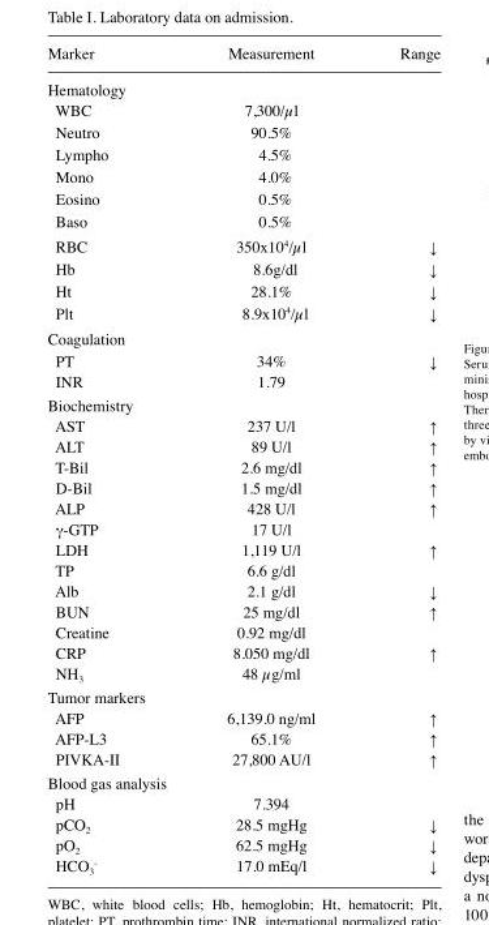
<table><thead><tr><td>Marker</td><td>Measurement</td><td>Range</td></tr></thead><tbody><tr><td colspan="3">Hematology</td></tr><tr><td>WBC</td><td>7,300/µl</td><td></td></tr><tr><td>Neutro</td><td>90.5%</td><td></td></tr><tr><td>Lympho</td><td>4.5%</td><td></td></tr><tr><td>Mono</td><td>4.0%</td><td></td></tr><tr><td>Eosino</td><td>0.5%</td><td></td></tr><tr><td>Baso</td><td>0.5%</td><td></td></tr><tr><td>RBC</td><td>350x104/µl</td><td>↓</td></tr><tr><td>Hb</td><td>8.6g/dl</td><td>↓</td></tr><tr><td>Ht</td><td>28.1%</td><td>↓</td></tr><tr><td>Plt</td><td>8.9x104/µl</td><td>↓</td></tr><tr><td colspan="3">Coagulation</td></tr><tr><td>PT</td><td>34%</td><td>↓</td></tr><tr><td>INR</td><td>1.79</td><td></td></tr><tr><td colspan="3">Biochemistry</td></tr><tr><td>AST</td><td>237 U/l</td><td>↑</td></tr><tr><td>ALT</td><td>89 U/l</td><td>↑</td></tr><tr><td>T-Bil</td><td>2.6 mg/dl</td><td>↑</td></tr><tr><td>D-Bil</td><td>1.5 mg/dl</td><td>↑</td></tr><tr><td>ALP</td><td>428 U/l</td><td>↑</td></tr><tr><td>γ-GTP</td><td>17 U/l</td><td></td></tr><tr><td>LDH</td><td>1,119 U/l</td><td>↑</td></tr><tr><td>TP</td><td>6.6 g/dl</td><td></td></tr><tr><td>Alb</td><td>2.1 g/dl</td><td>↓</td></tr><tr><td>BUN</td><td>25 mg/dl</td><td>↑</td></tr><tr><td>Creatine</td><td>0.92 mg/dl</td><td></td></tr><tr><td>CRP</td><td>8.050 mg/dl</td><td>↑</td></tr><tr><td>NH<sub>3</sub></td><td>48 µg/ml</td><td></td></tr><tr><td colspan="3">Tumor markers</td></tr><tr><td>AFP</td><td>6,139.0 ng/ml</td><td>↑</td></tr><tr><td>AFP-L3</td><td>65.1%</td><td>↑</td></tr><tr><td>PIVKA-II</td><td>27,800 AU/l</td><td>↑</td></tr><tr><td colspan="3">Blood gas analysis</td></tr><tr><td>pH</td><td>7.394</td><td></td></tr><tr><td>pCO<sub>2</sub></td><td>28.5 mgHg</td><td>↓</td></tr><tr><td>pO<sub>2</sub></td><td>62.5 mgHg</td><td>↓</td></tr><tr><td>HCO<sub>3</sub> <sup>-</sup></td><td>17.0 mEq/l</td><td>↓</td></tr></tbody></table>